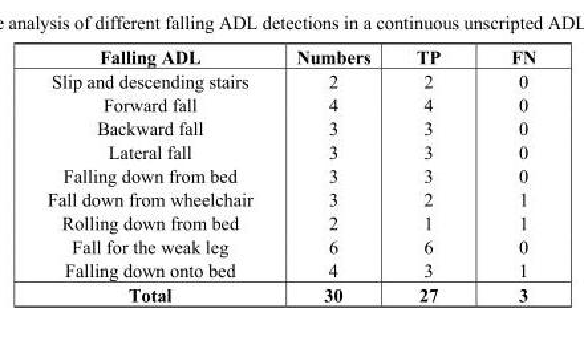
<table><thead><tr><td>Falling ADL</td><td>Numbers</td><td>TP</td><td>FN</td></tr></thead><tbody><tr><td>Slip and descending stairs</td><td>2</td><td>2</td><td>0</td></tr><tr><td>Forward fall</td><td>4</td><td>4</td><td>0</td></tr><tr><td>Backward fall</td><td>3</td><td>3</td><td>0</td></tr><tr><td>Lateral fall</td><td>3</td><td>3</td><td>0</td></tr><tr><td>Falling down from bed</td><td>3</td><td>3</td><td>0</td></tr><tr><td>Fall down from wheelchair</td><td>3</td><td>2</td><td>1</td></tr><tr><td>Rolling down from bed</td><td>2</td><td>1</td><td>1</td></tr><tr><td>Fall for the weak leg</td><td>6</td><td>6</td><td>0</td></tr><tr><td>Falling down onto bed</td><td>4</td><td>3</td><td>1</td></tr><tr><td>Total</td><td>30</td><td>27</td><td>3</td></tr></tbody></table>